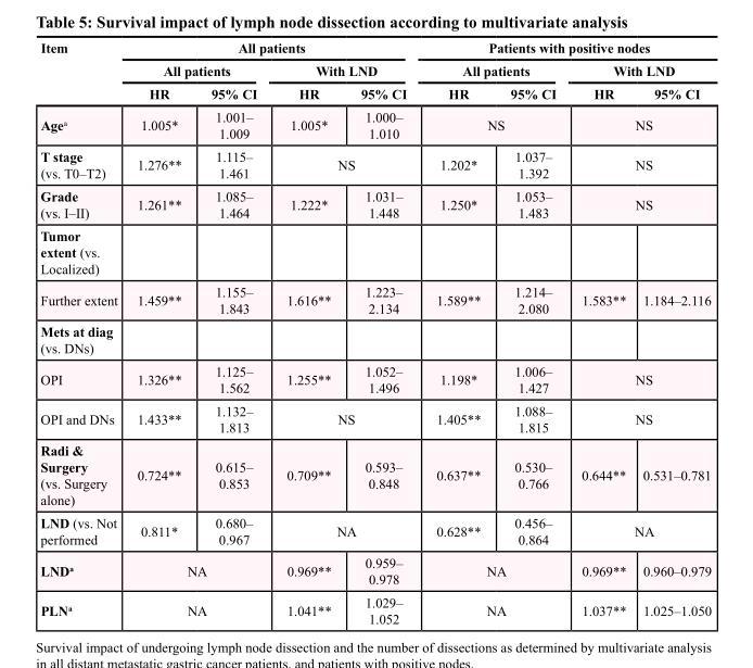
<table><thead><tr><td rowspan="3">Item</td><td colspan="4">All patients</td><td colspan="4">Patients with positive nodes</td></tr><tr><td colspan="2">All patients</td><td colspan="2">With LND</td><td colspan="2">All patients</td><td colspan="2">With LND</td></tr><tr><td>HR</td><td>95% CI</td><td>HR</td><td>95% CI</td><td>HR</td><td>95% CI</td><td>HR</td><td>95% CI</td></tr></thead><tbody><tr><td>Age<sup>a</sup></td><td>1.005*</td><td>1.001– 1.009</td><td>1.005*</td><td>1.000– 1.010</td><td colspan="2">NS</td><td colspan="2">NS</td></tr><tr><td>T stage (vs. T0–T2)</td><td>1.276**</td><td>1.115– 1.461</td><td colspan="2">NS</td><td>1.202*</td><td>1.037– 1.392</td><td colspan="2">NS</td></tr><tr><td>Grade (vs. I–II)</td><td>1.261**</td><td>1.085– 1.464</td><td>1.222*</td><td>1.031– 1.448</td><td>1.250*</td><td>1.053– 1.483</td><td colspan="2">NS</td></tr><tr><td colspan="9">Tumor extent (vs. Localized)</td></tr><tr><td>Further extent</td><td>1.459**</td><td>1.155– 1.843</td><td>1.616**</td><td>1.223– 2.134</td><td>1.589**</td><td>1.214– 2.080</td><td>1.583**</td><td>1.184–2.116</td></tr><tr><td colspan="9">Mets at diag (vs. DNs)</td></tr><tr><td>OPI</td><td>1.326**</td><td>1.125– 1.562</td><td>1.255**</td><td>1.052– 1.496</td><td>1.198*</td><td>1.006– 1.427</td><td colspan="2">NS</td></tr><tr><td>OPI and DNs</td><td>1.433**</td><td>1.132– 1.813</td><td colspan="2">NS</td><td>1.405**</td><td>1.088– 1.815</td><td colspan="2">NS</td></tr><tr><td>Radi &amp; Surgery (vs. Surgery alone)</td><td>0.724**</td><td>0.615– 0.853</td><td>0.709**</td><td>0.593– 0.848</td><td>0.637**</td><td>0.530– 0.766</td><td>0.644**</td><td>0.531–0.781</td></tr><tr><td>LND (vs. Not performed</td><td>0.811*</td><td>0.680– 0.967</td><td colspan="2">NA</td><td>0.628**</td><td>0.456– 0.864</td><td colspan="2">NA</td></tr><tr><td>LND<sup>a</sup></td><td colspan="2">NA</td><td>0.969**</td><td>0.959– 0.978</td><td colspan="2">NA</td><td>0.969**</td><td>0.960–0.979</td></tr><tr><td>PLN<sup>a</sup></td><td colspan="2">NA</td><td>1.041**</td><td>1.029– 1.052</td><td colspan="2">NA</td><td>1.037**</td><td>1.025–1.050</td></tr></tbody></table>